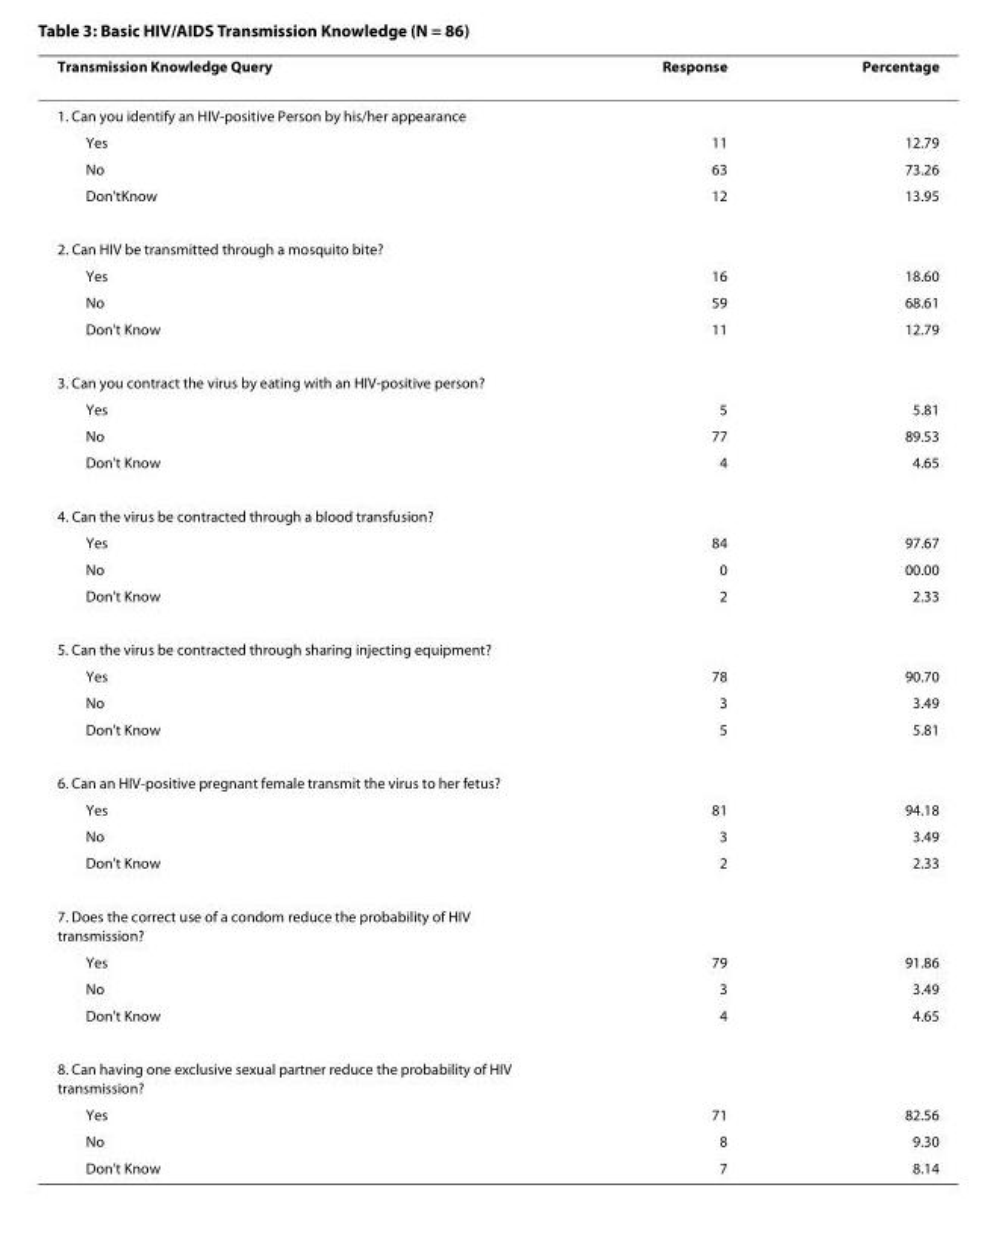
<table><thead><tr><td>Transmission Knowledge Query</td><td>Response</td><td>Percentage</td></tr></thead><tbody><tr><td colspan="3">1. Can you identify an HIV-positive Person by his/her appearance</td></tr><tr><td>Yes</td><td>11</td><td>12.79</td></tr><tr><td>No</td><td>63</td><td>73.26</td></tr><tr><td>Don&#x27;tKnow</td><td>12</td><td>13.95</td></tr><tr><td colspan="3">2. Can HIV be transmitted through a mosquito bite?</td></tr><tr><td>Yes</td><td>16</td><td>18.60</td></tr><tr><td>No</td><td>59</td><td>68.61</td></tr><tr><td>Don&#x27;t Know</td><td>11</td><td>12.79</td></tr><tr><td colspan="3">3. Can you contract the virus by eating with an HIV-positive person?</td></tr><tr><td>Yes</td><td>5</td><td>5.81</td></tr><tr><td>No</td><td>77</td><td>89.53</td></tr><tr><td>Don&#x27;t Know</td><td>4</td><td>4.65</td></tr><tr><td colspan="3">4. Can the virus be contracted through a blood transfusion?</td></tr><tr><td>Yes</td><td>84</td><td>97.67</td></tr><tr><td>No</td><td>0</td><td>00.00</td></tr><tr><td>Don&#x27;t Know</td><td>2</td><td>2.33</td></tr><tr><td colspan="3">5. Can the virus be contracted through sharing injecting equipment?</td></tr><tr><td>Yes</td><td>78</td><td>90.70</td></tr><tr><td>No</td><td>3</td><td>3.49</td></tr><tr><td>Don&#x27;t Know</td><td>5</td><td>5.81</td></tr><tr><td colspan="3">6. Can an HIV-positive pregnant female transmit the virus to her fetus?</td></tr><tr><td>Yes</td><td>81</td><td>94.18</td></tr><tr><td>No</td><td>3</td><td>3.49</td></tr><tr><td>Don&#x27;t Know</td><td>2</td><td>2.33</td></tr><tr><td colspan="3">7. Does the correct use of a condom reduce the probability of HIV transmission?</td></tr><tr><td>Yes</td><td>79</td><td>91.86</td></tr><tr><td>No</td><td>3</td><td>3.49</td></tr><tr><td>Don&#x27;t Know</td><td>4</td><td>4.65</td></tr><tr><td colspan="3">8. Can having one exclusive sexual partner reduce the probability of HIV transmission?</td></tr><tr><td>Yes</td><td>71</td><td>82.56</td></tr><tr><td>No</td><td>8</td><td>9.30</td></tr><tr><td>Don&#x27;t Know</td><td>7</td><td>8.14</td></tr></tbody></table>